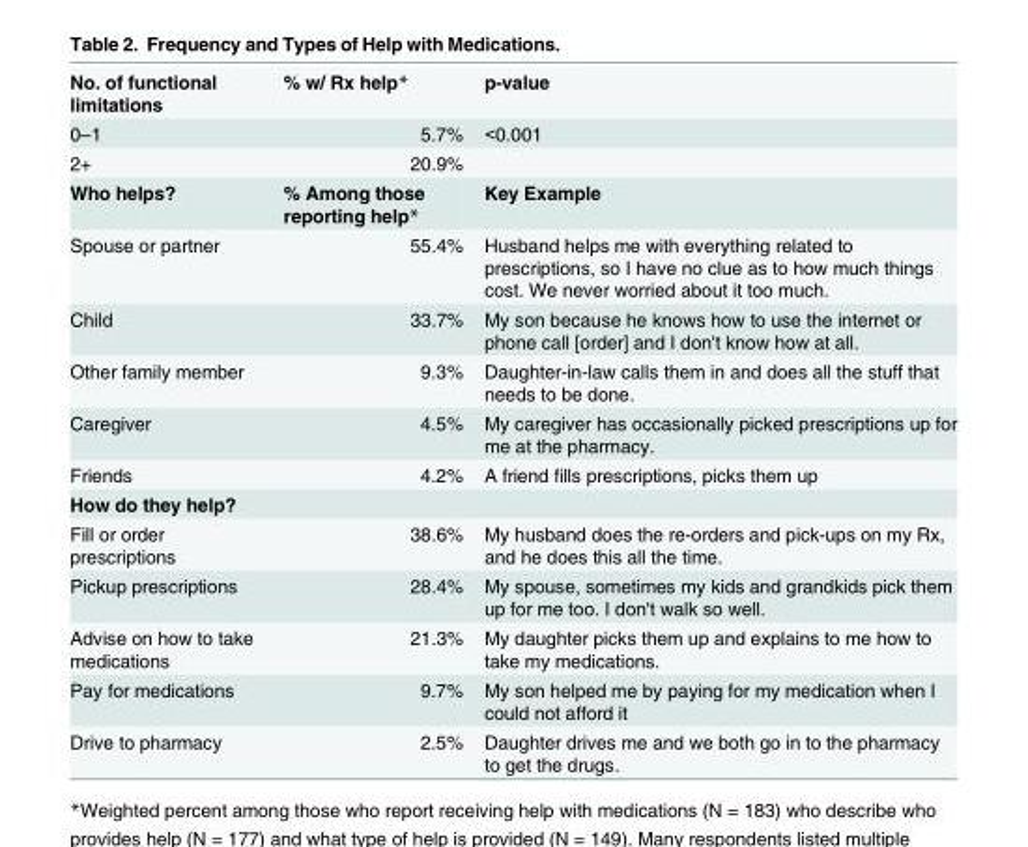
<table><tbody><tr><td>No. of functional limitations</td><td>% w/ Rx help*</td><td>p-value</td></tr><tr><td>0–1</td><td>5.7%</td><td>&lt;0.001</td></tr><tr><td>2+</td><td>20.9%</td><td></td></tr><tr><td>Who helps?</td><td>% Among those reporting help*</td><td>Key Example</td></tr><tr><td>Spouse or partner</td><td>55.4%</td><td>Husband helps me with everything related to prescriptions, so I have no clue as to how much things cost. We never worried about it too much.</td></tr><tr><td>Child</td><td>33.7%</td><td>My son because he knows how to use the internet or phone call [order] and I don&#x27;t know how at all.</td></tr><tr><td>Other family member</td><td>9.3%</td><td>Daughter-in-law calls them in and does all the stuff that needs to be done.</td></tr><tr><td>Caregiver</td><td>4.5%</td><td>My caregiver has occasionally picked prescriptions up for me at the pharmacy.</td></tr><tr><td>Friends</td><td>4.2%</td><td>A friend fills prescriptions, picks them up</td></tr><tr><td colspan="3">How do they help?</td></tr><tr><td>Fill or order prescriptions</td><td>38.6%</td><td>My husband does the re-orders and pick-ups on my Rx, and he does this all the time.</td></tr><tr><td>Pickup prescriptions</td><td>28.4%</td><td>My spouse, sometimes my kids and grandkids pick them up for me too. I don&#x27;t walk so well.</td></tr><tr><td>Advise on how to take medications</td><td>21.3%</td><td>My daughter picks them up and explains to me how to take my medications.</td></tr><tr><td>Pay for medications</td><td>9.7%</td><td>My son helped me by paying for my medication when I could not afford it</td></tr><tr><td>Drive to pharmacy</td><td>2.5%</td><td>Daughter drives me and we both go in to the pharmacy to get the drugs.</td></tr></tbody></table>